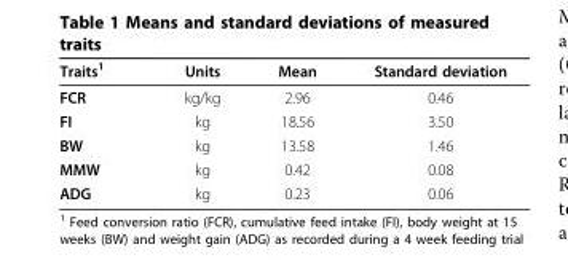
<table><thead><tr><td>Traits<sup>1</sup></td><td>Units</td><td>Mean</td><td>Standard deviation</td></tr></thead><tbody><tr><td>FCR</td><td>kg/kg</td><td>2.96</td><td>0.46</td></tr><tr><td>FI</td><td>kg</td><td>18.56</td><td>3.50</td></tr><tr><td>BW</td><td>kg</td><td>13.58</td><td>1.46</td></tr><tr><td>MMW</td><td>kg</td><td>0.42</td><td>0.08</td></tr><tr><td>ADG</td><td>kg</td><td>0.23</td><td>0.06</td></tr></tbody></table>